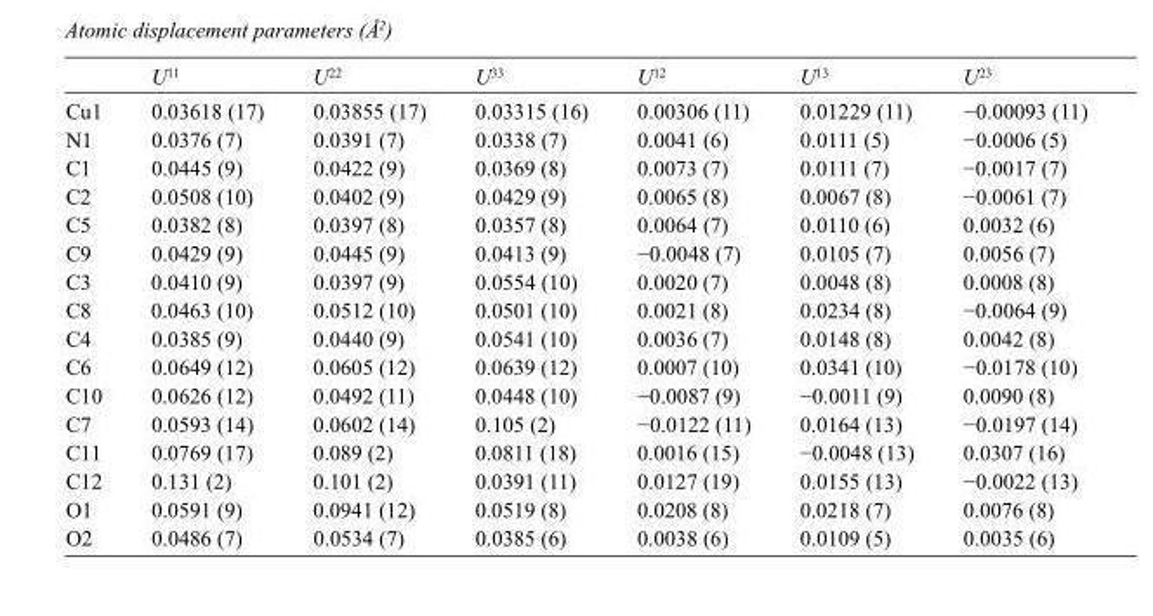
<table><thead><tr><td></td><td>U<sup>11</sup></td><td>U<sup>22</sup></td><td>U<sup>33</sup></td><td>U<sup>12</sup></td><td>U<sup>13</sup></td><td>U<sup>23</sup></td></tr></thead><tbody><tr><td>Cu1</td><td>0.03618 (17)</td><td>0.03855 (17)</td><td>0.03315 (16)</td><td>0.00306 (11)</td><td>0.01229 (11)</td><td>−0.00093 (11)</td></tr><tr><td>N1</td><td>0.0376 (7)</td><td>0.0391 (7)</td><td>0.0338 (7)</td><td>0.0041 (6)</td><td>0.0111 (5)</td><td>−0.0006 (5)</td></tr><tr><td>C1</td><td>0.0445 (9)</td><td>0.0422 (9)</td><td>0.0369 (8)</td><td>0.0073 (7)</td><td>0.0111 (7)</td><td>−0.0017 (7)</td></tr><tr><td>C2</td><td>0.0508 (10)</td><td>0.0402 (9)</td><td>0.0429 (9)</td><td>0.0065 (8)</td><td>0.0067 (8)</td><td>−0.0061 (7)</td></tr><tr><td>C5</td><td>0.0382 (8)</td><td>0.0397 (8)</td><td>0.0357 (8)</td><td>0.0064 (7)</td><td>0.0110 (6)</td><td>0.0032 (6)</td></tr><tr><td>C9</td><td>0.0429 (9)</td><td>0.0445 (9)</td><td>0.0413 (9)</td><td>−0.0048 (7)</td><td>0.0105 (7)</td><td>0.0056 (7)</td></tr><tr><td>C3</td><td>0.0410 (9)</td><td>0.0397 (9)</td><td>0.0554 (10)</td><td>0.0020 (7)</td><td>0.0048 (8)</td><td>0.0008 (8)</td></tr><tr><td>C8</td><td>0.0463 (10)</td><td>0.0512 (10)</td><td>0.0501 (10)</td><td>0.0021 (8)</td><td>0.0234 (8)</td><td>−0.0064 (9)</td></tr><tr><td>C4</td><td>0.0385 (9)</td><td>0.0440 (9)</td><td>0.0541 (10)</td><td>0.0036 (7)</td><td>0.0148 (8)</td><td>0.0042 (8)</td></tr><tr><td>C6</td><td>0.0649 (12)</td><td>0.0605 (12)</td><td>0.0639 (12)</td><td>0.0007 (10)</td><td>0.0341 (10)</td><td>−0.0178 (10)</td></tr><tr><td>C10</td><td>0.0626 (12)</td><td>0.0492 (11)</td><td>0.0448 (10)</td><td>−0.0087 (9)</td><td>−0.0011 (9)</td><td>0.0090 (8)</td></tr><tr><td>C7</td><td>0.0593 (14)</td><td>0.0602 (14)</td><td>0.105 (2)</td><td>−0.0122 (11)</td><td>0.0164 (13)</td><td>−0.0197 (14)</td></tr><tr><td>C11</td><td>0.0769 (17)</td><td>0.089 (2)</td><td>0.0811 (18)</td><td>0.0016 (15)</td><td>−0.0048 (13)</td><td>0.0307 (16)</td></tr><tr><td>C12</td><td>0.131 (2)</td><td>0.101 (2)</td><td>0.0391 (11)</td><td>0.0127 (19)</td><td>0.0155 (13)</td><td>−0.0022 (13)</td></tr><tr><td>O1</td><td>0.0591 (9)</td><td>0.0941 (12)</td><td>0.0519 (8)</td><td>0.0208 (8)</td><td>0.0218 (7)</td><td>0.0076 (8)</td></tr><tr><td>O2</td><td>0.0486 (7)</td><td>0.0534 (7)</td><td>0.0385 (6)</td><td>0.0038 (6)</td><td>0.0109 (5)</td><td>0.0035 (6)</td></tr></tbody></table>